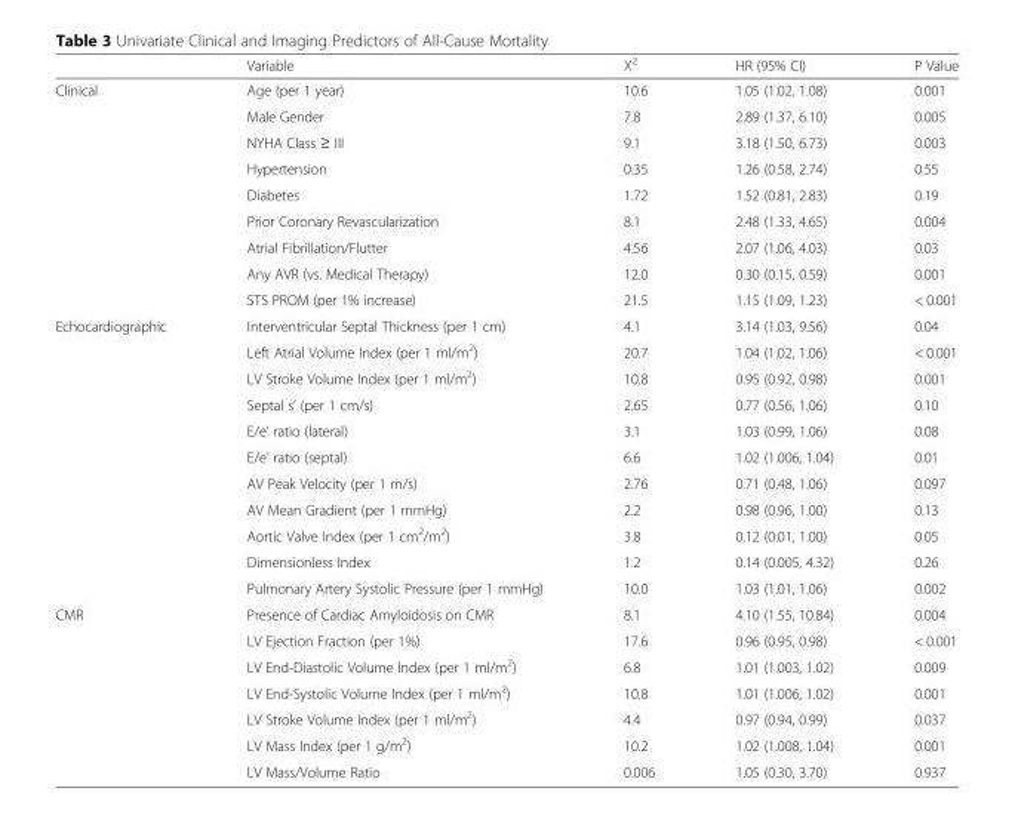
<table><thead><tr><td></td><td>Variable</td><td>X<sup>2</sup></td><td>HR (95% CI)</td><td>P Value</td></tr></thead><tbody><tr><td rowspan="9">Clinical</td><td>Age (per 1 year)</td><td>10.6</td><td>1.05 (1.02, 1.08)</td><td>0.001</td></tr><tr><td>Male Gender</td><td>7.8</td><td>2.89 (1.37, 6.10)</td><td>0.005</td></tr><tr><td>NYHA Class ≥ III</td><td>9.1</td><td>3.18 (1.50, 6.73)</td><td>0.003</td></tr><tr><td>Hypertension</td><td>0.35</td><td>1.26 (0.58, 2.74)</td><td>0.55</td></tr><tr><td>Diabetes</td><td>1.72</td><td>1.52 (0.81, 2.83)</td><td>0.19</td></tr><tr><td>Prior Coronary Revascularization</td><td>8.1</td><td>2.48 (1.33, 4.65)</td><td>0.004</td></tr><tr><td>Atrial Fibrillation/Flutter</td><td>4.56</td><td>2.07 (1.06, 4.03)</td><td>0.03</td></tr><tr><td>Any AVR (vs. Medical Therapy)</td><td>12.0</td><td>0.30 (0.15, 0.59)</td><td>0.001</td></tr><tr><td>STS PROM (per 1% increase)</td><td>21.5</td><td>1.15 (1.09, 1.23)</td><td>&lt; 0.001</td></tr><tr><td rowspan="11">Echocardiographic</td><td>Interventricular Septal Thickness (per 1 cm)</td><td>4.1</td><td>3.14 (1.03, 9.56)</td><td>0.04</td></tr><tr><td>Left Atrial Volume Index (per 1 ml/m<sup>2</sup>)</td><td>20.7</td><td>1.04 (1.02, 1.06)</td><td>&lt; 0.001</td></tr><tr><td>LV Stroke Volume Index (per 1 ml/m<sup>2</sup>)</td><td>10.8</td><td>0.95 (0.92, 0.98)</td><td>0.001</td></tr><tr><td>Septal s’ (per 1 cm/s)</td><td>2.65</td><td>0.77 (0.56, 1.06)</td><td>0.10</td></tr><tr><td>E/e’ ratio (lateral)</td><td>3.1</td><td>1.03 (0.99, 1.06)</td><td>0.08</td></tr><tr><td>E/e’ ratio (septal)</td><td>6.6</td><td>1.02 (1.006, 1.04)</td><td>0.01</td></tr><tr><td>AV Peak Velocity (per 1 m/s)</td><td>2.76</td><td>0.71 (0.48, 1.06)</td><td>0.097</td></tr><tr><td>AV Mean Gradient (per 1 mmHg)</td><td>2.2</td><td>0.98 (0.96, 1.00)</td><td>0.13</td></tr><tr><td>Aortic Valve Index (per 1 cm<sup>2</sup>/m<sup>2</sup>)</td><td>3.8</td><td>0.12 (0.01, 1.00)</td><td>0.05</td></tr><tr><td>Dimensionless Index</td><td>1.2</td><td>0.14 (0.005, 4.32)</td><td>0.26</td></tr><tr><td>Pulmonary Artery Systolic Pressure (per 1 mmHg)</td><td>10.0</td><td>1.03 (1.01, 1.06)</td><td>0.002</td></tr><tr><td rowspan="7">CMR</td><td>Presence of Cardiac Amyloidosis on CMR</td><td>8.1</td><td>4.10 (1.55, 10.84)</td><td>0.004</td></tr><tr><td>LV Ejection Fraction (per 1%)</td><td>17.6</td><td>0.96 (0.95, 0.98)</td><td>&lt; 0.001</td></tr><tr><td>LV End-Diastolic Volume Index (per 1 ml/m<sup>2</sup>)</td><td>6.8</td><td>1.01 (1.003, 1.02)</td><td>0.009</td></tr><tr><td>LV End-Systolic Volume Index (per 1 ml/m<sup>2</sup>)</td><td>10.8</td><td>1.01 (1.006, 1.02)</td><td>0.001</td></tr><tr><td>LV Stroke Volume Index (per 1 ml/m<sup>2</sup>)</td><td>4.4</td><td>0.97 (0.94, 0.99)</td><td>0.037</td></tr><tr><td>LV Mass Index (per 1 g/m<sup>2</sup>)</td><td>10.2</td><td>1.02 (1.008, 1.04)</td><td>0.001</td></tr><tr><td>LV Mass/Volume Ratio</td><td>0.006</td><td>1.05 (0.30, 3.70)</td><td>0.937</td></tr></tbody></table>